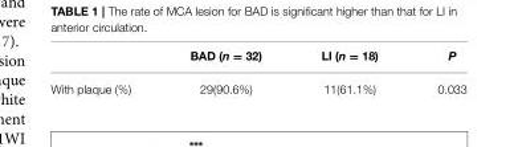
<table><thead><tr><td></td><td>BAD (n = 32)</td><td>LI (n = 18)</td><td>P</td></tr></thead><tbody><tr><td>With plaque (%)</td><td>29(90.6%)</td><td>11(61.1%)</td><td>0.033</td></tr></tbody></table>